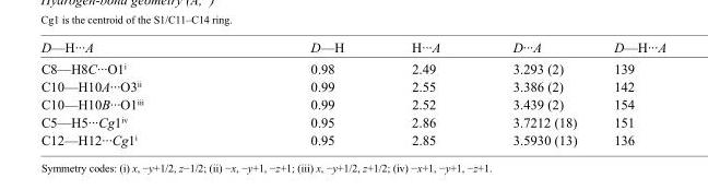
<table><tbody><tr><td>D—H···A</td><td>D—H</td><td>H···A</td><td>D···A</td><td>D—H···A</td></tr><tr><td>C8—H8C···O1<sup>i</sup></td><td>0.98</td><td>2.49</td><td>3.293 (2)</td><td>139</td></tr><tr><td>C10—H10A···O3<sup>ii</sup></td><td>0.99</td><td>2.55</td><td>3.386 (2)</td><td>142</td></tr><tr><td>C10—H10B···O1<sup>iii</sup></td><td>0.99</td><td>2.52</td><td>3.439 (2)</td><td>154</td></tr><tr><td>C5—H5···Cg1<sup>iv</sup></td><td>0.95</td><td>2.86</td><td>3.7212 (18)</td><td>151</td></tr><tr><td>C12—H12···Cg1<sup>i</sup></td><td>0.95</td><td>2.85</td><td>3.5930 (13)</td><td>136</td></tr></tbody></table>